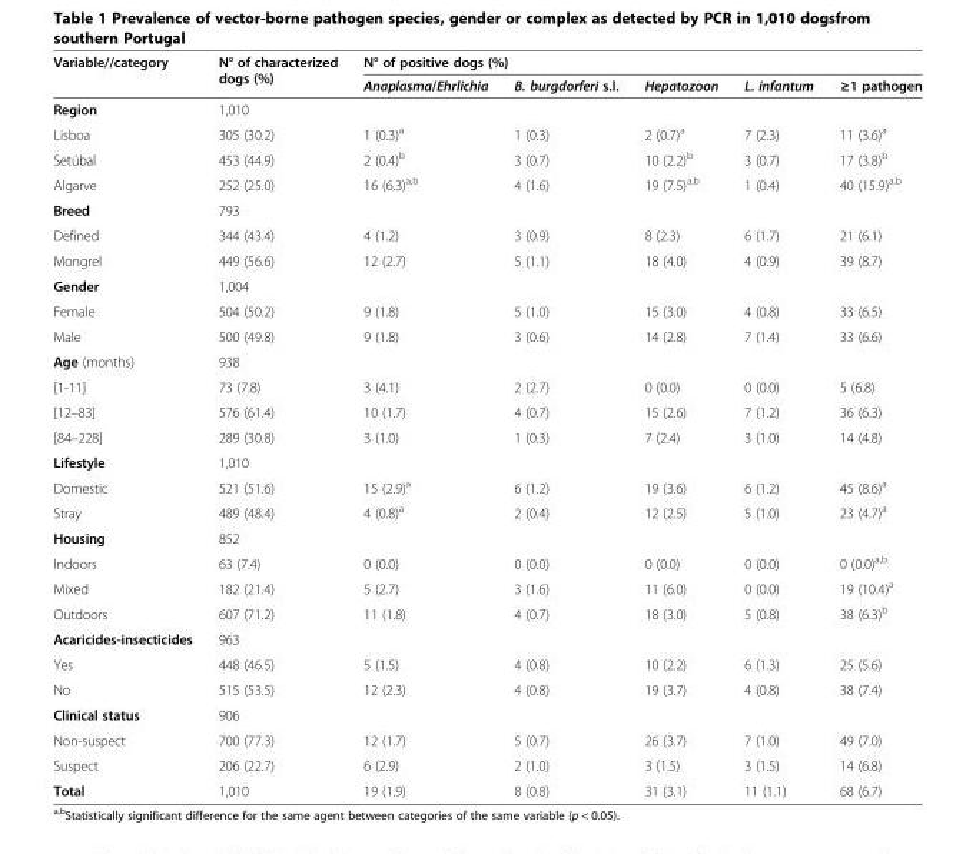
<table><thead><tr><td rowspan="2">Variable//category</td><td rowspan="2">N° of characterized dogs (%)</td><td colspan="5">N° of positive dogs (%)</td></tr><tr><td>Anaplasma/Ehrlichia</td><td>B. burgdorferi s.l.</td><td>Hepatozoon</td><td>L. infantum</td><td>≥1 pathogen</td></tr></thead><tbody><tr><td>Region</td><td>1,010</td><td></td><td></td><td></td><td></td><td></td></tr><tr><td>Lisboa</td><td>305 (30.2)</td><td>1 (0.3)<sup>a</sup></td><td>1 (0.3)</td><td>2 (0.7)<sup>a</sup></td><td>7 (2.3)</td><td>11 (3.6)<sup>a</sup></td></tr><tr><td>Setúbal</td><td>453 (44.9)</td><td>2 (0.4)<sup>b</sup></td><td>3 (0.7)</td><td>10 (2.2)<sup>b</sup></td><td>3 (0.7)</td><td>17 (3.8)<sup>b</sup></td></tr><tr><td>Algarve</td><td>252 (25.0)</td><td>16 (6.3)<sup>a,b</sup></td><td>4 (1.6)</td><td>19 (7.5)<sup>a,b</sup></td><td>1 (0.4)</td><td>40 (15.9)<sup>a,b</sup></td></tr><tr><td>Breed</td><td>793</td><td></td><td></td><td></td><td></td><td></td></tr><tr><td>Defined</td><td>344 (43.4)</td><td>4 (1.2)</td><td>3 (0.9)</td><td>8 (2.3)</td><td>6 (1.7)</td><td>21 (6.1)</td></tr><tr><td>Mongrel</td><td>449 (56.6)</td><td>12 (2.7)</td><td>5 (1.1)</td><td>18 (4.0)</td><td>4 (0.9)</td><td>39 (8.7)</td></tr><tr><td>Gender</td><td>1,004</td><td></td><td></td><td></td><td></td><td></td></tr><tr><td>Female</td><td>504 (50.2)</td><td>9 (1.8)</td><td>5 (1.0)</td><td>15 (3.0)</td><td>4 (0.8)</td><td>33 (6.5)</td></tr><tr><td>Male</td><td>500 (49.8)</td><td>9 (1.8)</td><td>3 (0.6)</td><td>14 (2.8)</td><td>7 (1.4)</td><td>33 (6.6)</td></tr><tr><td>Age (months)</td><td>938</td><td></td><td></td><td></td><td></td><td></td></tr><tr><td>[1-11]</td><td>73 (7.8)</td><td>3 (4.1)</td><td>2 (2.7)</td><td>0 (0.0)</td><td>0 (0.0)</td><td>5 (6.8)</td></tr><tr><td>[12–83]</td><td>576 (61.4)</td><td>10 (1.7)</td><td>4 (0.7)</td><td>15 (2.6)</td><td>7 (1.2)</td><td>36 (6.3)</td></tr><tr><td>[84–228]</td><td>289 (30.8)</td><td>3 (1.0)</td><td>1 (0.3)</td><td>7 (2.4)</td><td>3 (1.0)</td><td>14 (4.8)</td></tr><tr><td>Lifestyle</td><td>1,010</td><td></td><td></td><td></td><td></td><td></td></tr><tr><td>Domestic</td><td>521 (51.6)</td><td>15 (2.9)<sup>a</sup></td><td>6 (1.2)</td><td>19 (3.6)</td><td>6 (1.2)</td><td>45 (8.6)<sup>a</sup></td></tr><tr><td>Stray</td><td>489 (48.4)</td><td>4 (0.8)<sup>a</sup></td><td>2 (0.4)</td><td>12 (2.5)</td><td>5 (1.0)</td><td>23 (4.7)<sup>a</sup></td></tr><tr><td>Housing</td><td>852</td><td></td><td></td><td></td><td></td><td></td></tr><tr><td>Indoors</td><td>63 (7.4)</td><td>0 (0.0)</td><td>0 (0.0)</td><td>0 (0.0)</td><td>0 (0.0)</td><td>0 (0.0)<sup>a,b</sup></td></tr><tr><td>Mixed</td><td>182 (21.4)</td><td>5 (2.7)</td><td>3 (1.6)</td><td>11 (6.0)</td><td>0 (0.0)</td><td>19 (10.4)<sup>a</sup></td></tr><tr><td>Outdoors</td><td>607 (71.2)</td><td>11 (1.8)</td><td>4 (0.7)</td><td>18 (3.0)</td><td>5 (0.8)</td><td>38 (6.3)<sup>b</sup></td></tr><tr><td>Acaricides-insecticides</td><td>963</td><td></td><td></td><td></td><td></td><td></td></tr><tr><td>Yes</td><td>448 (46.5)</td><td>5 (1.5)</td><td>4 (0.8)</td><td>10 (2.2)</td><td>6 (1.3)</td><td>25 (5.6)</td></tr><tr><td>No</td><td>515 (53.5)</td><td>12 (2.3)</td><td>4 (0.8)</td><td>19 (3.7)</td><td>4 (0.8)</td><td>38 (7.4)</td></tr><tr><td>Clinical status</td><td>906</td><td></td><td></td><td></td><td></td><td></td></tr><tr><td>Non-suspect</td><td>700 (77.3)</td><td>12 (1.7)</td><td>5 (0.7)</td><td>26 (3.7)</td><td>7 (1.0)</td><td>49 (7.0)</td></tr><tr><td>Suspect</td><td>206 (22.7)</td><td>6 (2.9)</td><td>2 (1.0)</td><td>3 (1.5)</td><td>3 (1.5)</td><td>14 (6.8)</td></tr><tr><td>Total</td><td>1,010</td><td>19 (1.9)</td><td>8 (0.8)</td><td>31 (3.1)</td><td>11 (1.1)</td><td>68 (6.7)</td></tr></tbody></table>